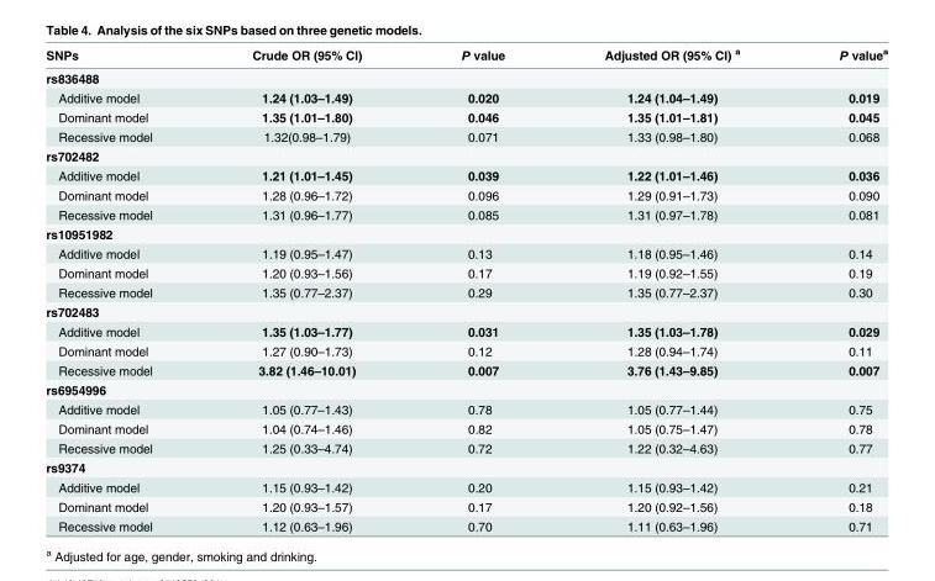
<table><thead><tr><td>SNPs</td><td>Crude OR (95% CI)</td><td>P value</td><td>Adjusted OR (95% CI) <sup>a</sup></td><td>P value<sup>a</sup></td></tr></thead><tbody><tr><td colspan="5">rs836488</td></tr><tr><td>Additive model</td><td>1.24 (1.03–1.49)</td><td>0.020</td><td>1.24 (1.04–1.49)</td><td>0.019</td></tr><tr><td>Dominant model</td><td>1.35 (1.01–1.80)</td><td>0.046</td><td>1.35 (1.01–1.81)</td><td>0.045</td></tr><tr><td>Recessive model</td><td>1.32(0.98–1.79)</td><td>0.071</td><td>1.33 (0.98–1.80)</td><td>0.068</td></tr><tr><td colspan="5">rs702482</td></tr><tr><td>Additive model</td><td>1.21 (1.01–1.45)</td><td>0.039</td><td>1.22 (1.01–1.46)</td><td>0.036</td></tr><tr><td>Dominant model</td><td>1.28 (0.96–1.72)</td><td>0.096</td><td>1.29 (0.91–1.73)</td><td>0.090</td></tr><tr><td>Recessive model</td><td>1.31 (0.96–1.77)</td><td>0.085</td><td>1.31 (0.97–1.78)</td><td>0.081</td></tr><tr><td colspan="5">rs10951982</td></tr><tr><td>Additive model</td><td>1.19 (0.95–1.47)</td><td>0.13</td><td>1.18 (0.95–1.46)</td><td>0.14</td></tr><tr><td>Dominant model</td><td>1.20 (0.93–1.56)</td><td>0.17</td><td>1.19 (0.92–1.55)</td><td>0.19</td></tr><tr><td>Recessive model</td><td>1.35 (0.77–2.37)</td><td>0.29</td><td>1.35 (0.77–2.37)</td><td>0.30</td></tr><tr><td colspan="5">rs702483</td></tr><tr><td>Additive model</td><td>1.35 (1.03–1.77)</td><td>0.031</td><td>1.35 (1.03–1.78)</td><td>0.029</td></tr><tr><td>Dominant model</td><td>1.27 (0.90–1.73)</td><td>0.12</td><td>1.28 (0.94–1.74)</td><td>0.11</td></tr><tr><td>Recessive model</td><td>3.82 (1.46–10.01)</td><td>0.007</td><td>3.76 (1.43–9.85)</td><td>0.007</td></tr><tr><td colspan="5">rs6954996</td></tr><tr><td>Additive model</td><td>1.05 (0.77–1.43)</td><td>0.78</td><td>1.05 (0.77–1.44)</td><td>0.75</td></tr><tr><td>Dominant model</td><td>1.04 (0.74–1.46)</td><td>0.82</td><td>1.05 (0.75–1.47)</td><td>0.78</td></tr><tr><td>Recessive model</td><td>1.25 (0.33–4.74)</td><td>0.72</td><td>1.22 (0.32–4.63)</td><td>0.77</td></tr><tr><td colspan="5">rs9374</td></tr><tr><td>Additive model</td><td>1.15 (0.93–1.42)</td><td>0.20</td><td>1.15 (0.93–1.42)</td><td>0.21</td></tr><tr><td>Dominant model</td><td>1.20 (0.93–1.57)</td><td>0.17</td><td>1.20 (0.92–1.56)</td><td>0.18</td></tr><tr><td>Recessive model</td><td>1.12 (0.63–1.96)</td><td>0.70</td><td>1.11 (0.63–1.96)</td><td>0.71</td></tr></tbody></table>